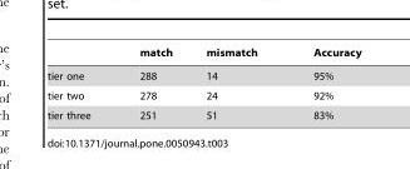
<table><thead><tr><td></td><td>match</td><td>mismatch</td><td>Accuracy</td></tr></thead><tbody><tr><td>tier one</td><td>288</td><td>14</td><td>95%</td></tr><tr><td>tier two</td><td>278</td><td>24</td><td>92%</td></tr><tr><td>tier three</td><td>251</td><td>51</td><td>83%</td></tr></tbody></table>